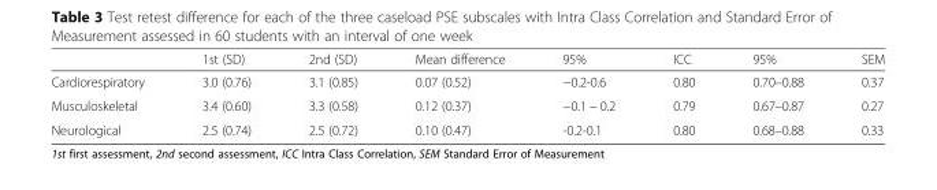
<table><thead><tr><td></td><td>1st (SD)</td><td>2nd (SD)</td><td>Mean difference</td><td>95%</td><td>ICC</td><td>95%</td><td>SEM</td></tr></thead><tbody><tr><td>Cardiorespiratory</td><td>3.0 (0.76)</td><td>3.1 (0.85)</td><td>0.07 (0.52)</td><td>−0.2-0.6</td><td>0.80</td><td>0.70–0.88</td><td>0.37</td></tr><tr><td>Musculoskeletal</td><td>3.4 (0.60)</td><td>3.3 (0.58)</td><td>0.12 (0.37)</td><td>−0.1 − 0.2</td><td>0.79</td><td>0.67–0.87</td><td>0.27</td></tr><tr><td>Neurological</td><td>2.5 (0.74)</td><td>2.5 (0.72)</td><td>0.10 (0.47)</td><td>-0.2-0.1</td><td>0.80</td><td>0.68–0.88</td><td>0.33</td></tr></tbody></table>